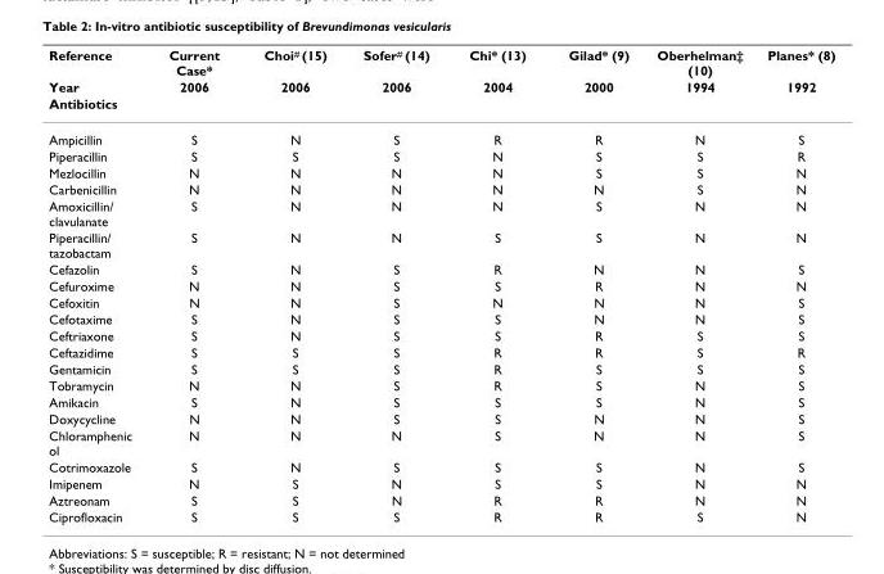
<table><thead><tr><td rowspan="3">Reference Year Antibiotics</td><td rowspan="3">Current Case* 2006</td><td rowspan="3">Choi<sup>#</sup> (15) 2006</td><td rowspan="3">Sofer<sup>#</sup> (14) 2006</td><td rowspan="3">Chi* (13) 2004</td><td rowspan="3">Gilad* (9) 2000</td><td rowspan="3">Oberhelman‡ (10) 1994</td><td rowspan="3">Planes* (8) 1992</td></tr><tr></tr><tr></tr></thead><tbody><tr><td>Ampicillin</td><td>S</td><td>N</td><td>S</td><td>R</td><td>R</td><td>N</td><td>S</td></tr><tr><td>Piperacillin</td><td>S</td><td>S</td><td>S</td><td>N</td><td>S</td><td>S</td><td>R</td></tr><tr><td>Mezlocillin</td><td>N</td><td>N</td><td>N</td><td>N</td><td>S</td><td>S</td><td>N</td></tr><tr><td>Carbenicillin</td><td>N</td><td>N</td><td>N</td><td>N</td><td>N</td><td>S</td><td>N</td></tr><tr><td>Amoxicillin/ clavulanate</td><td>S</td><td>N</td><td>N</td><td>N</td><td>S</td><td>N</td><td>N</td></tr><tr><td>Piperacillin/ tazobactam</td><td>S</td><td>N</td><td>N</td><td>S</td><td>S</td><td>N</td><td>N</td></tr><tr><td>Cefazolin</td><td>S</td><td>N</td><td>S</td><td>R</td><td>N</td><td>N</td><td>S</td></tr><tr><td>Cefuroxime</td><td>N</td><td>N</td><td>S</td><td>S</td><td>R</td><td>N</td><td>N</td></tr><tr><td>Cefoxitin</td><td>N</td><td>N</td><td>S</td><td>N</td><td>N</td><td>N</td><td>S</td></tr><tr><td>Cefotaxime</td><td>S</td><td>N</td><td>S</td><td>S</td><td>N</td><td>N</td><td>S</td></tr><tr><td>Ceftriaxone</td><td>S</td><td>N</td><td>S</td><td>S</td><td>R</td><td>S</td><td>S</td></tr><tr><td>Ceftazidime</td><td>S</td><td>S</td><td>S</td><td>R</td><td>R</td><td>S</td><td>R</td></tr><tr><td>Gentamicin</td><td>S</td><td>S</td><td>S</td><td>R</td><td>S</td><td>S</td><td>S</td></tr><tr><td>Tobramycin</td><td>N</td><td>N</td><td>S</td><td>R</td><td>S</td><td>N</td><td>S</td></tr><tr><td>Amikacin</td><td>S</td><td>N</td><td>S</td><td>S</td><td>S</td><td>N</td><td>S</td></tr><tr><td>Doxycycline</td><td>N</td><td>N</td><td>S</td><td>S</td><td>N</td><td>N</td><td>S</td></tr><tr><td>Chloramphenic ol</td><td>N</td><td>N</td><td>N</td><td>S</td><td>N</td><td>N</td><td>S</td></tr><tr><td>Cotrimoxazole</td><td>S</td><td>N</td><td>S</td><td>S</td><td>S</td><td>N</td><td>S</td></tr><tr><td>Imipenem</td><td>N</td><td>S</td><td>N</td><td>S</td><td>S</td><td>N</td><td>N</td></tr><tr><td>Aztreonam</td><td>S</td><td>S</td><td>N</td><td>R</td><td>R</td><td>N</td><td>N</td></tr><tr><td>Ciprofloxacin</td><td>S</td><td>S</td><td>S</td><td>R</td><td>R</td><td>S</td><td>N</td></tr></tbody></table>